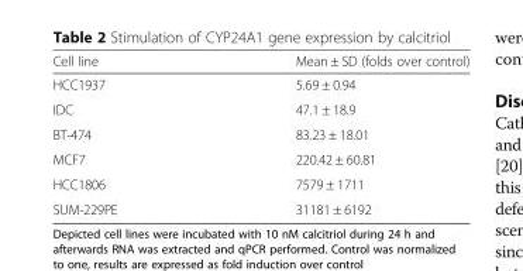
<table><thead><tr><td>Cell line</td><td>Mean ± SD (folds over control)</td></tr></thead><tbody><tr><td>HCC1937</td><td>5.69 ± 0.94</td></tr><tr><td>IDC</td><td>47.1 ± 18.9</td></tr><tr><td>BT-474</td><td>83.23 ± 18.01</td></tr><tr><td>MCF7</td><td>220.42 ± 60.81</td></tr><tr><td>HCC1806</td><td>7579 ± 1711</td></tr><tr><td>SUM-229PE</td><td>31181 ± 6192</td></tr></tbody></table>